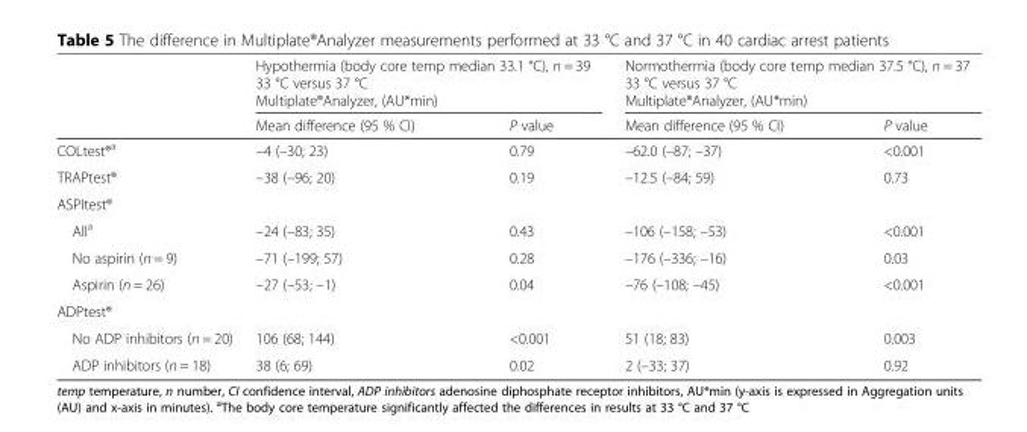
<table><thead><tr><td rowspan="3"></td><td colspan="2">Hypothermia (body core temp median 33.1 °C), n = 39 33 °C versus 37 °C</td><td colspan="2">Normothermia (body core temp median 37.5 °C), n = 37 33 °C versus 37 °C</td></tr><tr><td rowspan="2">Multiplate®Analyzer, (AU*min) Mean difference (95 % CI)</td><td rowspan="2">P value</td><td rowspan="2">Multiplate®Analyzer, (AU*min) Mean difference (95 % CI)</td><td rowspan="2">P value</td></tr><tr></tr></thead><tbody><tr><td>COLtest®<sup>a</sup></td><td>–4 (–30; 23)</td><td>0.79</td><td>–62.0 (–87; –37)</td><td>&lt;0.001</td></tr><tr><td>TRAPtest®</td><td>–38 (–96; 20)</td><td>0.19</td><td>–12.5 (–84; 59)</td><td>0.73</td></tr><tr><td colspan="5">ASPItest®</td></tr><tr><td>All<sup>a</sup></td><td>–24 (–83; 35)</td><td>0.43</td><td>–106 (–158; –53)</td><td>&lt;0.001</td></tr><tr><td>No aspirin (n = 9)</td><td>–71 (–199; 57)</td><td>0.28</td><td>–176 (–336; –16)</td><td>0.03</td></tr><tr><td>Aspirin (n = 26)</td><td>–27 (–53; –1)</td><td>0.04</td><td>–76 (–108; –45)</td><td>&lt;0.001</td></tr><tr><td colspan="5">ADPtest®</td></tr><tr><td>No ADP inhibitors (n = 20)</td><td>106 (68; 144)</td><td>&lt;0.001</td><td>51 (18; 83)</td><td>0.003</td></tr><tr><td>ADP inhibitors (n = 18)</td><td>38 (6; 69)</td><td>0.02</td><td>2 (–33; 37)</td><td>0.92</td></tr></tbody></table>